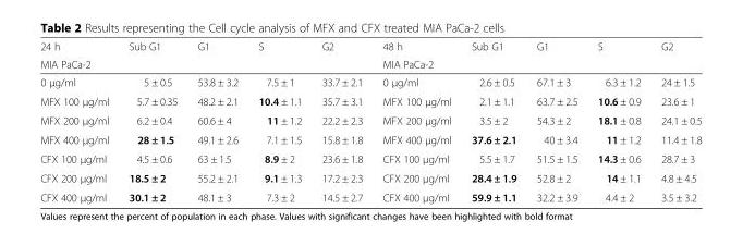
<table><thead><tr><td rowspan="2">24 h MIA PaCa-2</td><td rowspan="2">Sub G1</td><td rowspan="2">G1</td><td rowspan="2">S</td><td rowspan="2">G2</td><td rowspan="2">48 h MIA PaCa-2</td><td rowspan="2">Sub G1</td><td rowspan="2">G1</td><td rowspan="2">S</td><td rowspan="2">G2</td></tr><tr></tr></thead><tbody><tr><td>0 μg/ml</td><td>5 ± 0.5</td><td>53.8 ± 3.2</td><td>7.5 ± 1</td><td>33.7 ± 2.1</td><td>0 μg/ml</td><td>2.6 ± 0.5</td><td>67.1 ± 3</td><td>6.3 ± 1.2</td><td>24 ± 1.5</td></tr><tr><td>MFX 100 μg/ml</td><td>5.7 ± 0.35</td><td>48.2 ± 2.1</td><td>10.4 ± 1.1</td><td>35.7 ± 3.1</td><td>MFX 100 μg/ml</td><td>2.1 ± 1.1</td><td>63.7 ± 2.5</td><td>10.6 ± 0.9</td><td>23.6 ± 1</td></tr><tr><td>MFX 200 μg/ml</td><td>6.2 ± 0.4</td><td>60.6 ± 4</td><td>11 ± 1.2</td><td>22.2 ± 2.3</td><td>MFX 200 μg/ml</td><td>3.5 ± 2</td><td>54.3 ± 2</td><td>18.1 ± 0.8</td><td>24.1 ± 0.5</td></tr><tr><td>MFX 400 μg/ml</td><td>28 ± 1.5</td><td>49.1 ± 2.6</td><td>7.1 ± 1.5</td><td>15.8 ± 1.8</td><td>MFX 400 μg/ml</td><td>37.6 ± 2.1</td><td>40 ± 3.4</td><td>11 ± 1.2</td><td>11.4 ± 1.8</td></tr><tr><td>CFX 100 μg/ml</td><td>4.5 ± 0.6</td><td>63 ± 1.5</td><td>8.9 ± 2</td><td>23.6 ± 1.8</td><td>CFX 100 μg/ml</td><td>5.5 ± 1.7</td><td>51.5 ± 1.5</td><td>14.3 ± 0.6</td><td>28.7 ± 3</td></tr><tr><td>CFX 200 μg/ml</td><td>18.5 ± 2</td><td>55.2 ± 2.1</td><td>9.1 ± 1.3</td><td>17.2 ± 2.3</td><td>CFX 200 μg/ml</td><td>28.4 ± 1.9</td><td>52.8 ± 2</td><td>14 ± 1.1</td><td>4.8 ± 4.5</td></tr><tr><td>CFX 400 μg/ml</td><td>30.1 ± 2</td><td>48.1 ± 3</td><td>7.3 ± 2</td><td>14.5 ± 2.7</td><td>CFX 400 μg/ml</td><td>59.9 ± 1.1</td><td>32.2 ± 3.9</td><td>4.4 ± 2</td><td>3.5 ± 3.2</td></tr></tbody></table>